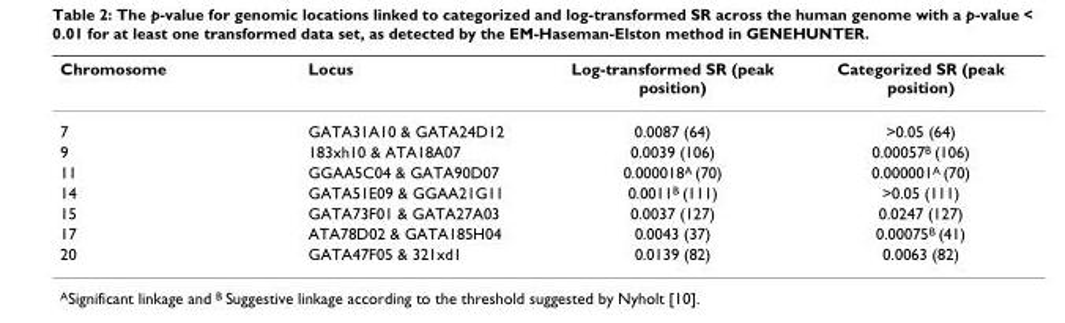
<table><thead><tr><td>Chromosome</td><td>Locus</td><td>Log-transformed SR (peak position)</td><td>Categorized SR (peak position)</td></tr></thead><tbody><tr><td>7</td><td>GATA31A10 &amp; GATA24D12</td><td>0.0087 (64)</td><td>&gt;0.05 (64)</td></tr><tr><td>9</td><td>183xh10 &amp; ATA18A07</td><td>0.0039 (106)</td><td>0.00057B (106)</td></tr><tr><td>11</td><td>GGAA5C04 &amp; GATA90D07</td><td>0.000018A (70)</td><td>0.000001A (70)</td></tr><tr><td>14</td><td>GATA51E09 &amp; GGAA21G11</td><td>0.0011B (111)</td><td>&gt;0.05 (111)</td></tr><tr><td>15</td><td>GATA73F01 &amp; GATA27A03</td><td>0.0037 (127)</td><td>0.0247 (127)</td></tr><tr><td>17</td><td>ATA78D02 &amp; GATA185H04</td><td>0.0043 (37)</td><td>0.00075B (41)</td></tr><tr><td>20</td><td>GATA47F05 &amp; 321xd1</td><td>0.0139 (82)</td><td>0.0063 (82)</td></tr></tbody></table>